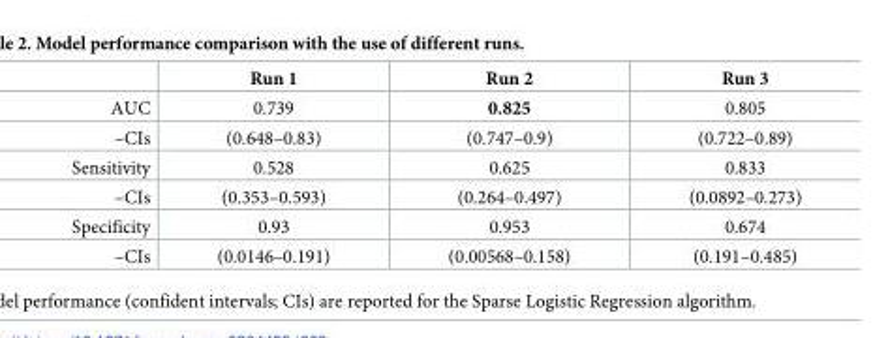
<table><thead><tr><td></td><td>Run 1</td><td>Run 2</td><td>Run 3</td></tr></thead><tbody><tr><td>AUC</td><td>0.739</td><td>0.825</td><td>0.805</td></tr><tr><td>–CIs</td><td>(0.648–0.83)</td><td>(0.747–0.9)</td><td>(0.722–0.89)</td></tr><tr><td>Sensitivity</td><td>0.528</td><td>0.625</td><td>0.833</td></tr><tr><td>–CIs</td><td>(0.353–0.593)</td><td>(0.264–0.497)</td><td>(0.0892–0.273)</td></tr><tr><td>Specificity</td><td>0.93</td><td>0.953</td><td>0.674</td></tr><tr><td>–CIs</td><td>(0.0146–0.191)</td><td>(0.00568–0.158)</td><td>(0.191–0.485)</td></tr></tbody></table>